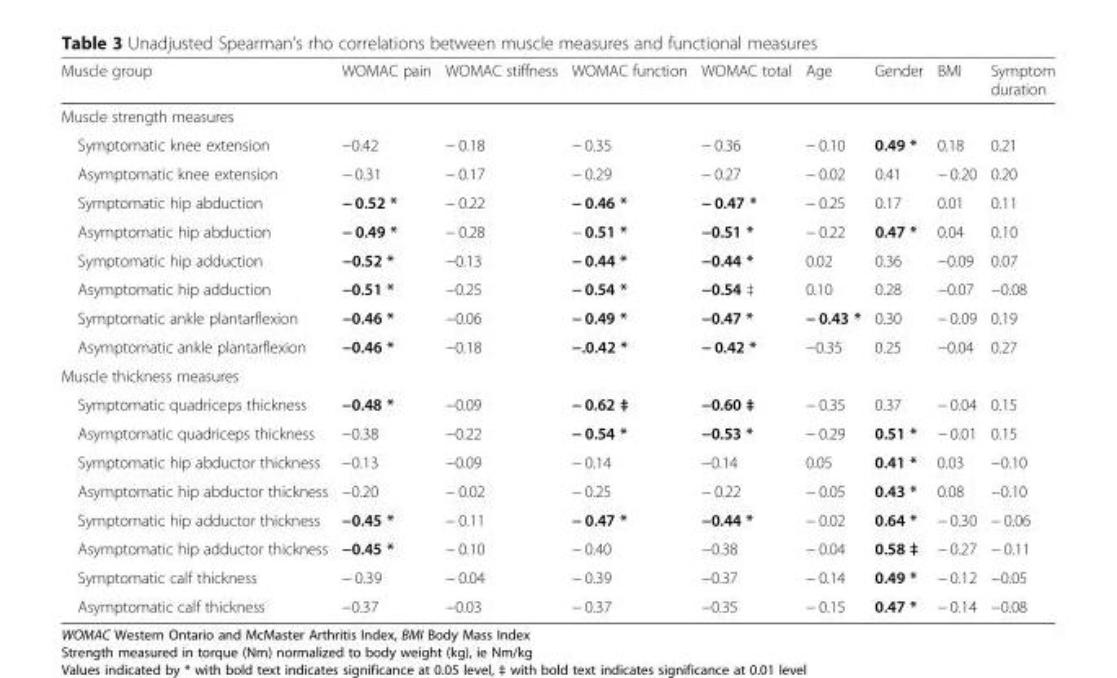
<table><thead><tr><td>Muscle group</td><td>WOMAC pain</td><td>WOMAC stiffness</td><td>WOMAC function</td><td>WOMAC total</td><td>Age</td><td>Gender</td><td>BMI</td><td>Symptom duration</td></tr></thead><tbody><tr><td colspan="9">Muscle strength measures</td></tr><tr><td>Symptomatic knee extension</td><td>−0.42</td><td>− 0.18</td><td>− 0.35</td><td>− 0.36</td><td>− 0.10</td><td>0.49 *</td><td>0.18</td><td>0.21</td></tr><tr><td>Asymptomatic knee extension</td><td>− 0.31</td><td>− 0.17</td><td>− 0.29</td><td>− 0.27</td><td>− 0.02</td><td>0.41</td><td>− 0.20</td><td>0.20</td></tr><tr><td>Symptomatic hip abduction</td><td>− 0.52 *</td><td>− 0.22</td><td>− 0.46 *</td><td>− 0.47 *</td><td>− 0.25</td><td>0.17</td><td>0.01</td><td>0.11</td></tr><tr><td>Asymptomatic hip abduction</td><td>− 0.49 *</td><td>− 0.28</td><td>− 0.51 *</td><td>−0.51 *</td><td>− 0.22</td><td>0.47 *</td><td>0.04</td><td>0.10</td></tr><tr><td>Symptomatic hip adduction</td><td>−0.52 *</td><td>−0.13</td><td>− 0.44 *</td><td>−0.44 *</td><td>0.02</td><td>0.36</td><td>−0.09</td><td>0.07</td></tr><tr><td>Asymptomatic hip adduction</td><td>−0.51 *</td><td>−0.25</td><td>− 0.54 *</td><td>−0.54 ‡</td><td>0.10</td><td>0.28</td><td>−0.07</td><td>−0.08</td></tr><tr><td>Symptomatic ankle plantarflexion</td><td>−0.46 *</td><td>−0.06</td><td>− 0.49 *</td><td>−0.47 *</td><td>− 0.43 *</td><td>0.30</td><td>− 0.09</td><td>0.19</td></tr><tr><td>Asymptomatic ankle plantarflexion</td><td>−0.46 *</td><td>−0.18</td><td>−.0.42 *</td><td>− 0.42 *</td><td>−0.35</td><td>0.25</td><td>−0.04</td><td>0.27</td></tr><tr><td colspan="9">Muscle thickness measures</td></tr><tr><td>Symptomatic quadriceps thickness</td><td>−0.48 *</td><td>−0.09</td><td>− 0.62 ‡</td><td>−0.60 ‡</td><td>− 0.35</td><td>0.37</td><td>− 0.04</td><td>0.15</td></tr><tr><td>Asymptomatic quadriceps thickness</td><td>−0.38</td><td>−0.22</td><td>− 0.54 *</td><td>−0.53 *</td><td>− 0.29</td><td>0.51 *</td><td>− 0.01</td><td>0.15</td></tr><tr><td>Symptomatic hip abductor thickness</td><td>−0.13</td><td>−0.09</td><td>− 0.14</td><td>−0.14</td><td>0.05</td><td>0.41 *</td><td>0.03</td><td>−0.10</td></tr><tr><td>Asymptomatic hip abductor thickness</td><td>−0.20</td><td>− 0.02</td><td>− 0.25</td><td>− 0.22</td><td>− 0.05</td><td>0.43 *</td><td>0.08</td><td>−0.10</td></tr><tr><td>Symptomatic hip adductor thickness</td><td>−0.45 *</td><td>− 0.11</td><td>− 0.47 *</td><td>−0.44 *</td><td>− 0.02</td><td>0.64 *</td><td>− 0.30</td><td>− 0.06</td></tr><tr><td>Asymptomatic hip adductor thickness</td><td>−0.45 *</td><td>− 0.10</td><td>− 0.40</td><td>−0.38</td><td>− 0.04</td><td>0.58 ‡</td><td>− 0.27</td><td>− 0.11</td></tr><tr><td>Symptomatic calf thickness</td><td>− 0.39</td><td>− 0.04</td><td>− 0.39</td><td>−0.37</td><td>− 0.14</td><td>0.49 *</td><td>− 0.12</td><td>−0.05</td></tr><tr><td>Asymptomatic calf thickness</td><td>−0.37</td><td>−0.03</td><td>− 0.37</td><td>−0.35</td><td>− 0.15</td><td>0.47 *</td><td>− 0.14</td><td>−0.08</td></tr></tbody></table>